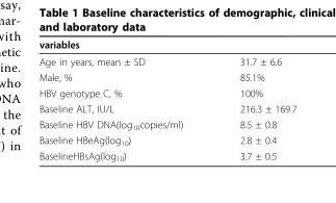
<table><thead><tr><td>variables</td><td></td></tr></thead><tbody><tr><td>Age in years, mean ± SD</td><td>31.7 ± 6.6</td></tr><tr><td>Male, %</td><td>85.1%</td></tr><tr><td>HBV genotype C, %</td><td>100%</td></tr><tr><td>Baseline ALT, IU/L</td><td>216.3 ± 169.7</td></tr><tr><td>Baseline HBV DNA(log<sub>10</sub>copies/ml)</td><td>8.5 ± 0.8</td></tr><tr><td>Baseline HBeAg(log<sub>10</sub>)</td><td>2.8 ± 0.4</td></tr><tr><td>BaselineHBsAg(log<sub>10</sub>)</td><td>3.7 ± 0.5</td></tr></tbody></table>